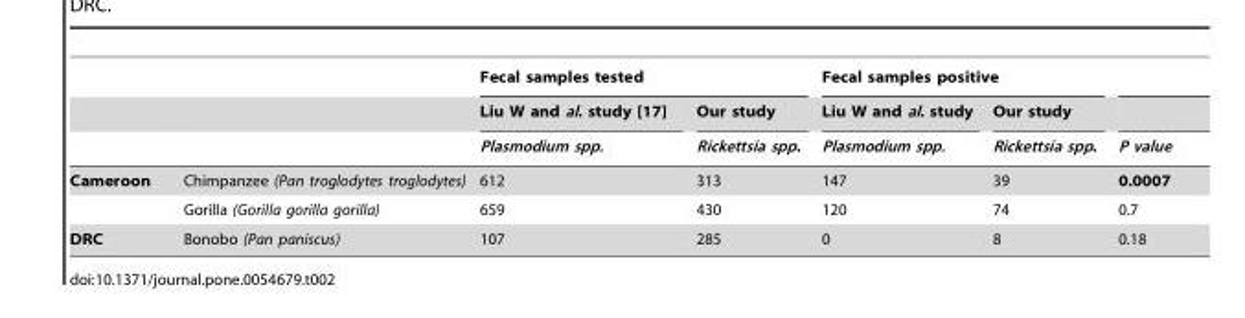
<table><thead><tr><td rowspan="3"></td><td rowspan="3"></td><td colspan="2">Fecal samples tested</td><td colspan="2">Fecal samples positive</td><td rowspan="3">P value</td></tr><tr><td rowspan="2">Liu W and al. study [17] Plasmodium spp.</td><td rowspan="2">Our study Rickettsia spp.</td><td rowspan="2">Liu W and al. study Plasmodium spp.</td><td rowspan="2">Our study Rickettsia spp.</td></tr><tr></tr></thead><tbody><tr><td rowspan="2">Cameroon</td><td>Chimpanzee (Pan troglodytes troglodytes)</td><td>612</td><td>313</td><td>147</td><td>39</td><td>0.0007</td></tr><tr><td>Gorilla (Gorilla gorilla gorilla)</td><td>659</td><td>430</td><td>120</td><td>74</td><td>0.7</td></tr><tr><td>DRC</td><td>Bonobo (Pan paniscus)</td><td>107</td><td>285</td><td>0</td><td>8</td><td>0.18</td></tr></tbody></table>